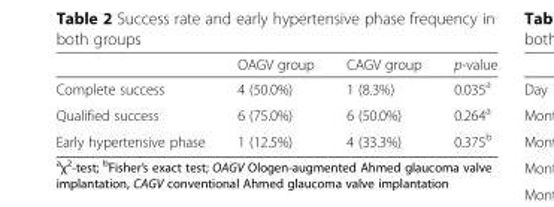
<table><thead><tr><td></td><td>OAGV group</td><td>CAGV group</td><td>p-value</td></tr></thead><tbody><tr><td>Complete success</td><td>4 (50.0%)</td><td>1 (8.3%)</td><td>0.035<sup>a</sup></td></tr><tr><td>Qualified success</td><td>6 (75.0%)</td><td>6 (50.0%)</td><td>0.264<sup>a</sup></td></tr><tr><td>Early hypertensive phase</td><td>1 (12.5%)</td><td>4 (33.3%)</td><td>0.375<sup>b</sup></td></tr></tbody></table>